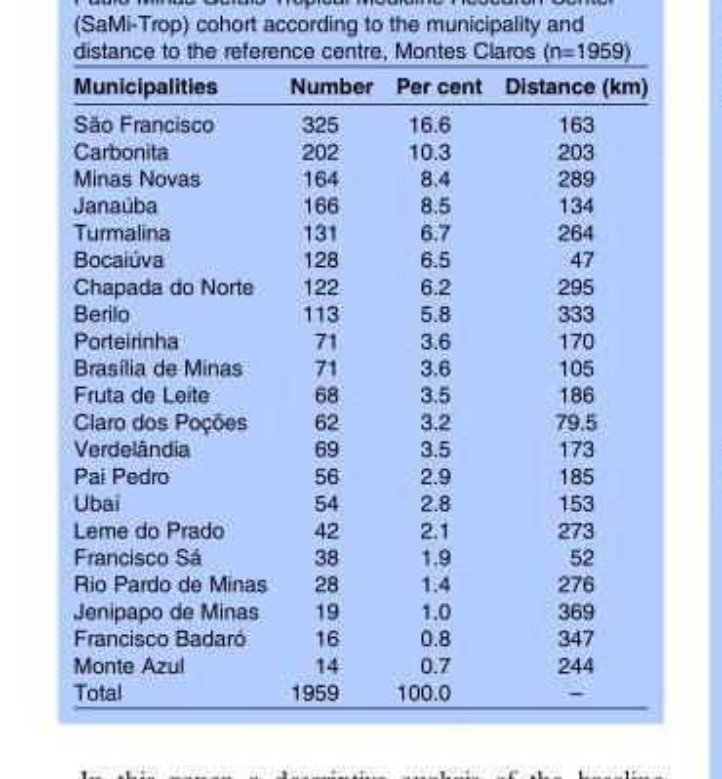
<table><thead><tr><td>Municipalities</td><td>Number</td><td>Per cent</td><td>Distance (km)</td></tr></thead><tbody><tr><td>São Francisco</td><td>325</td><td>16.6</td><td>163</td></tr><tr><td>Carbonita</td><td>202</td><td>10.3</td><td>203</td></tr><tr><td>Minas Novas</td><td>164</td><td>8.4</td><td>289</td></tr><tr><td>Janaúba</td><td>166</td><td>8.5</td><td>134</td></tr><tr><td>Turmalina</td><td>131</td><td>6.7</td><td>264</td></tr><tr><td>Bocaiúva</td><td>128</td><td>6.5</td><td>47</td></tr><tr><td>Chapada do Norte</td><td>122</td><td>6.2</td><td>295</td></tr><tr><td>Berilo</td><td>113</td><td>5.8</td><td>333</td></tr><tr><td>Porteirinha</td><td>71</td><td>3.6</td><td>170</td></tr><tr><td>Brasília de Minas</td><td>71</td><td>3.6</td><td>105</td></tr><tr><td>Fruta de Leite</td><td>68</td><td>3.5</td><td>186</td></tr><tr><td>Claro dos Poções</td><td>62</td><td>3.2</td><td>79.5</td></tr><tr><td>Verdelândia</td><td>69</td><td>3.5</td><td>173</td></tr><tr><td>Pai Pedro</td><td>56</td><td>2.9</td><td>185</td></tr><tr><td>Ubaí</td><td>54</td><td>2.8</td><td>153</td></tr><tr><td>Leme do Prado</td><td>42</td><td>2.1</td><td>273</td></tr><tr><td>Francisco Sá</td><td>38</td><td>1.9</td><td>52</td></tr><tr><td>Rio Pardo de Minas</td><td>28</td><td>1.4</td><td>276</td></tr><tr><td>Jenipapo de Minas</td><td>19</td><td>1.0</td><td>369</td></tr><tr><td>Francisco Badaró</td><td>16</td><td>0.8</td><td>347</td></tr><tr><td>Monte Azul</td><td>14</td><td>0.7</td><td>244</td></tr><tr><td>Total</td><td>1959</td><td>100.0</td><td>–</td></tr></tbody></table>